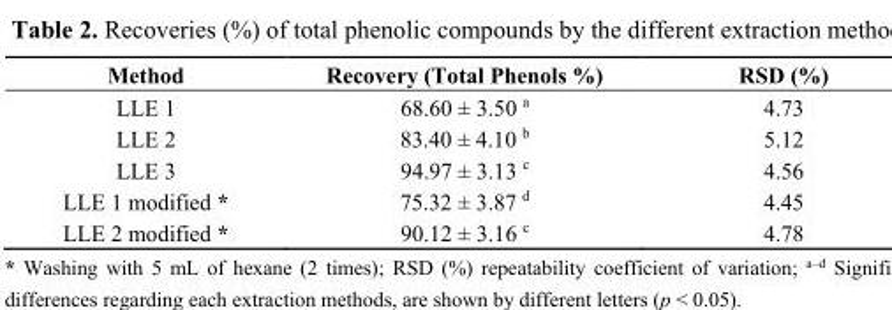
<table><thead><tr><td>Method</td><td>Recovery (Total Phenols %)</td><td>RSD (%)</td></tr></thead><tbody><tr><td>LLE 1</td><td>68.60 ± 3.50 <sup>a</sup></td><td>4.73</td></tr><tr><td>LLE 2</td><td>83.40 ± 4.10 <sup>b</sup></td><td>5.12</td></tr><tr><td>LLE 3</td><td>94.97 ± 3.13 <sup>c</sup></td><td>4.56</td></tr><tr><td>LLE 1 modified *</td><td>75.32 ± 3.87 <sup>d</sup></td><td>4.45</td></tr><tr><td>LLE 2 modified *</td><td>90.12 ± 3.16 <sup>c</sup></td><td>4.78</td></tr></tbody></table>